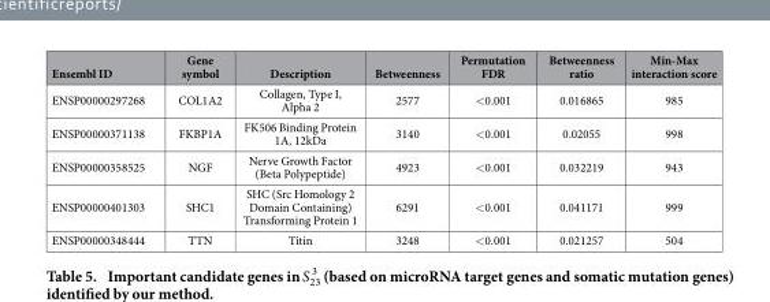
<table><thead><tr><td>Ensembl ID</td><td>Gene symbol</td><td>Description</td><td>Betweenness</td><td>Permutation FDR</td><td>Betweenness ratio</td><td>Min-Max interaction score</td></tr></thead><tbody><tr><td>ENSP00000297268</td><td>COL1A2</td><td>Collagen, Type I, Alpha 2</td><td>2577</td><td>&lt; 0.001</td><td>0.016865</td><td>985</td></tr><tr><td>ENSP00000371138</td><td>FKBP1A</td><td>FK506 Binding Protein 1A, 12kDa</td><td>3140</td><td>&lt; 0.001</td><td>0.02055</td><td>998</td></tr><tr><td>ENSP00000358525</td><td>NGF</td><td>Nerve Growth Factor (Beta Polypeptide)</td><td>4923</td><td>&lt; 0.001</td><td>0.032219</td><td>943</td></tr><tr><td>ENSP00000401303</td><td>SHC1</td><td>SHC (Src Homology 2 Domain Containing) Transforming Protein 1</td><td>6291</td><td>&lt; 0.001</td><td>0.041171</td><td>999</td></tr><tr><td>ENSP00000348444</td><td>TTN</td><td>Titin</td><td>3248</td><td>&lt; 0.001</td><td>0.021257</td><td>504</td></tr></tbody></table>